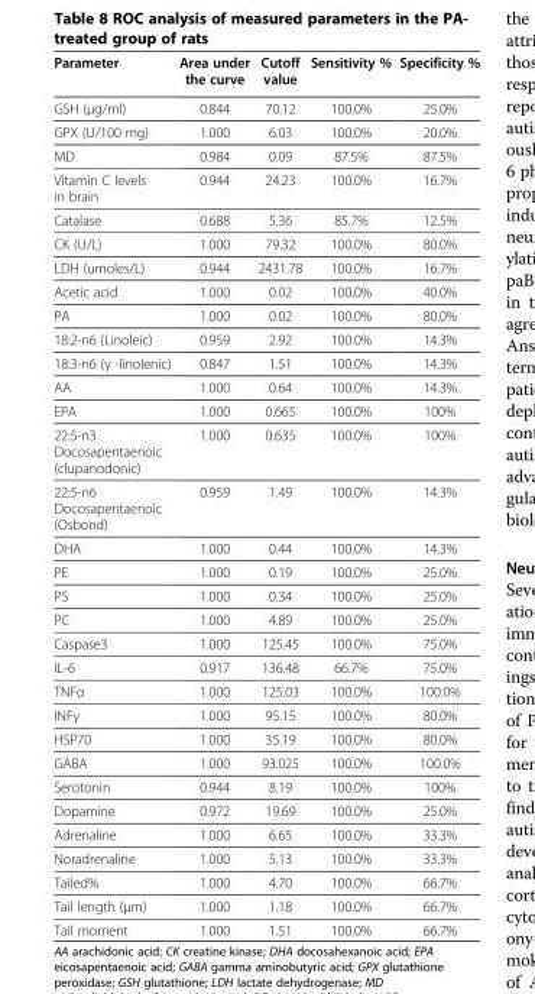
<table><thead><tr><td>Parameter</td><td>Area under the curve</td><td>Cutoff value</td><td>Sensitivity %</td><td>Specificity %</td></tr></thead><tbody><tr><td>GSH (μg/ml)</td><td>0.844</td><td>70.12</td><td>100.0%</td><td>25.0%</td></tr><tr><td>GPX (U/100 mg)</td><td>1.000</td><td>6.03</td><td>100.0%</td><td>20.0%</td></tr><tr><td>MD</td><td>0.984</td><td>0.09</td><td>87.5%</td><td>87.5%</td></tr><tr><td>Vitamin C levels in brain</td><td>0.944</td><td>24.23</td><td>100.0%</td><td>16.7%</td></tr><tr><td>Catalase</td><td>0.688</td><td>5.36</td><td>85.7%</td><td>12.5%</td></tr><tr><td>CK (U/L)</td><td>1.000</td><td>79.32</td><td>100.0%</td><td>80.0%</td></tr><tr><td>LDH (umoles/L)</td><td>0.944</td><td>2431.78</td><td>100.0%</td><td>16.7%</td></tr><tr><td>Acetic acid</td><td>1.000</td><td>0.02</td><td>100.0%</td><td>40.0%</td></tr><tr><td>PA</td><td>1.000</td><td>0.02</td><td>100.0%</td><td>80.0%</td></tr><tr><td>18:2-n6 (Linoleic)</td><td>0.959</td><td>2.92</td><td>100.0%</td><td>14.3%</td></tr><tr><td>18:3-n6 (γ -linolenic)</td><td>0.847</td><td>1.51</td><td>100.0%</td><td>14.3%</td></tr><tr><td>AA</td><td>1.000</td><td>0.64</td><td>100.0%</td><td>14.3%</td></tr><tr><td>EPA</td><td>1.000</td><td>0.665</td><td>100.0%</td><td>100%</td></tr><tr><td>22:5-n3 Docosapentaenoic (clupanodonic)</td><td>1.000</td><td>0.635</td><td>100.0%</td><td>100%</td></tr><tr><td>22:5-n6 Docosapentaenoic (Osbond)</td><td>0.959</td><td>1.49</td><td>100.0%</td><td>14.3%</td></tr><tr><td>DHA</td><td>1.000</td><td>0.44</td><td>100.0%</td><td>14.3%</td></tr><tr><td>PE</td><td>1.000</td><td>0.19</td><td>100.0%</td><td>25.0%</td></tr><tr><td>PS</td><td>1.000</td><td>0.34</td><td>100.0%</td><td>25.0%</td></tr><tr><td>PC</td><td>1.000</td><td>4.89</td><td>100.0%</td><td>25.0%</td></tr><tr><td>Caspase3</td><td>1.000</td><td>125.45</td><td>100.0%</td><td>75.0%</td></tr><tr><td>IL-6</td><td>0.917</td><td>136.48</td><td>66.7%</td><td>75.0%</td></tr><tr><td>TNFα</td><td>1.000</td><td>125.03</td><td>100.0%</td><td>100.0%</td></tr><tr><td>INFγ</td><td>1.000</td><td>95.15</td><td>100.0%</td><td>80.0%</td></tr><tr><td>HSP70</td><td>1.000</td><td>35.19</td><td>100.0%</td><td>80.0%</td></tr><tr><td>GABA</td><td>1.000</td><td>93.025</td><td>100.0%</td><td>100.0%</td></tr><tr><td>Serotonin</td><td>0.944</td><td>8.19</td><td>100.0%</td><td>100%</td></tr><tr><td>Dopamine</td><td>0.972</td><td>19.69</td><td>100.0%</td><td>25.0%</td></tr><tr><td>Adrenaline</td><td>1.000</td><td>6.65</td><td>100.0%</td><td>33.3%</td></tr><tr><td>Noradrenaline</td><td>1.000</td><td>5.13</td><td>100.0%</td><td>33.3%</td></tr><tr><td>Tailed%</td><td>1.000</td><td>4.70</td><td>100.0%</td><td>66.7%</td></tr><tr><td>Tail length (μm)</td><td>1.000</td><td>1.18</td><td>100.0%</td><td>66.7%</td></tr><tr><td>Tail moment</td><td>1.000</td><td>1.51</td><td>100.0%</td><td>66.7%</td></tr></tbody></table>